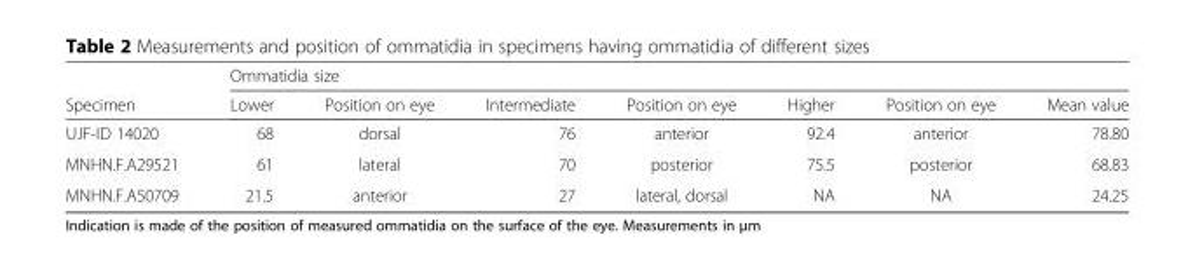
<table><thead><tr><td rowspan="2">Specimen</td><td colspan="7">Ommatidia size</td></tr><tr><td>Lower</td><td>Position on eye</td><td>Intermediate</td><td>Position on eye</td><td>Higher</td><td>Position on eye</td><td>Mean value</td></tr></thead><tbody><tr><td>UJF-ID 14020</td><td>68</td><td>dorsal</td><td>76</td><td>anterior</td><td>92.4</td><td>anterior</td><td>78.80</td></tr><tr><td>MNHN.F.A29521</td><td>61</td><td>lateral</td><td>70</td><td>posterior</td><td>75.5</td><td>posterior</td><td>68.83</td></tr><tr><td>MNHN.F.A50709</td><td>21.5</td><td>anterior</td><td>27</td><td>lateral, dorsal</td><td>NA</td><td>NA</td><td>24.25</td></tr></tbody></table>